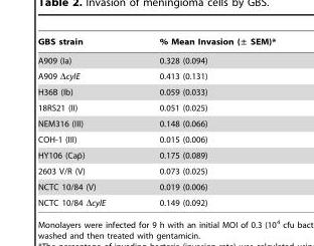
<table><thead><tr><td>GBS strain</td><td>% Mean Invasion (± SEM)*</td></tr></thead><tbody><tr><td>A909 (Ia)</td><td>0.328 (0.094)</td></tr><tr><td>A909 ΔcylE</td><td>0.413 (0.131)</td></tr><tr><td>H36B (Ib)</td><td>0.059 (0.033)</td></tr><tr><td>18RS21 (II)</td><td>0.051 (0.025)</td></tr><tr><td>NEM316 (III)</td><td>0.148 (0.066)</td></tr><tr><td>COH-1 (III)</td><td>0.015 (0.006)</td></tr><tr><td>HY106 (Cap¯)</td><td>0.175 (0.089)</td></tr><tr><td>2603 V/R (V)</td><td>0.073 (0.025)</td></tr><tr><td>NCTC 10/84 (V)</td><td>0.019 (0.006)</td></tr><tr><td>NCTC 10/84 ΔcylE</td><td>0.149 (0.092)</td></tr></tbody></table>